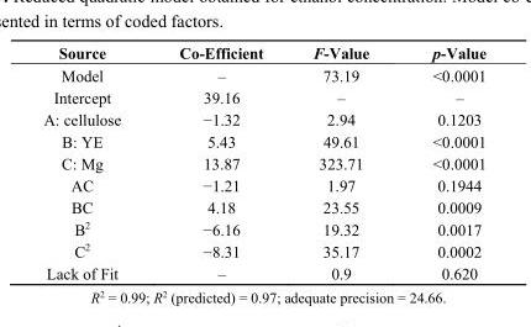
<table><thead><tr><td>Source</td><td>Co-Efficient</td><td>F-Value</td><td>p-Value</td></tr></thead><tbody><tr><td>Model</td><td>–</td><td>73.19</td><td>&lt;0.0001</td></tr><tr><td>Intercept</td><td>39.16</td><td>–</td><td>–</td></tr><tr><td>A: cellulose</td><td>−1.32</td><td>2.94</td><td>0.1203</td></tr><tr><td>B: YE</td><td>5.43</td><td>49.61</td><td>&lt;0.0001</td></tr><tr><td>C: Mg</td><td>13.87</td><td>323.71</td><td>&lt;0.0001</td></tr><tr><td>AC</td><td>−1.21</td><td>1.97</td><td>0.1944</td></tr><tr><td>BC</td><td>4.18</td><td>23.55</td><td>0.0009</td></tr><tr><td>B<sup>2</sup></td><td>−6.16</td><td>19.32</td><td>0.0017</td></tr><tr><td>C<sup>2</sup></td><td>−8.31</td><td>35.17</td><td>0.0002</td></tr><tr><td>Lack of Fit</td><td>–</td><td>0.9</td><td>0.620</td></tr></tbody></table>